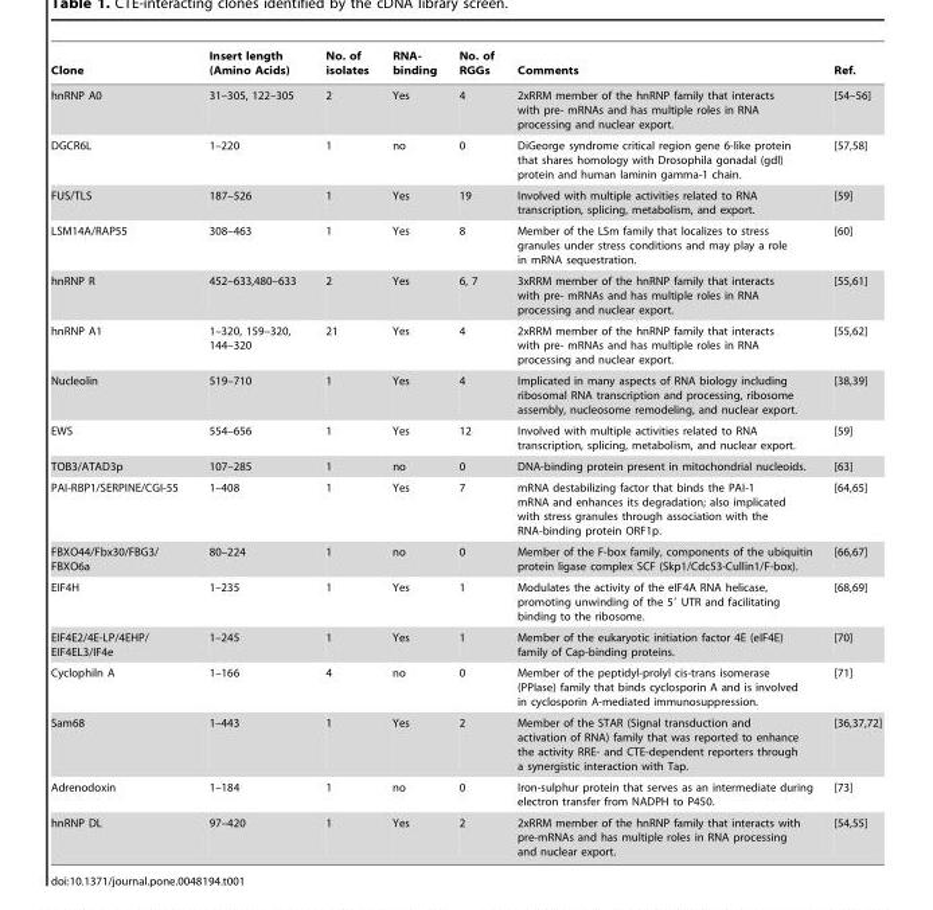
<table><thead><tr><td>Clone</td><td>Insert length (Amino Acids)</td><td>No. of isolates</td><td>RNA- binding</td><td>No. of RGGs</td><td>Comments</td><td>Ref.</td></tr></thead><tbody><tr><td>hnRNP A0</td><td>31–305, 122–305</td><td>2</td><td>Yes</td><td>4</td><td>2xRRM member of the hnRNP family that interacts with pre- mRNAs and has multiple roles in RNA processing and nuclear export.</td><td>[54–56]</td></tr><tr><td>DGCR6L</td><td>1–220</td><td>1</td><td>no</td><td>0</td><td>DiGeorge syndrome critical region gene 6-like protein that shares homology with Drosophila gonadal (gdl) protein and human laminin gamma-1 chain.</td><td>[57,58]</td></tr><tr><td>FUS/TLS</td><td>187–526</td><td>1</td><td>Yes</td><td>19</td><td>Involved with multiple activities related to RNA transcription, splicing, metabolism, and export.</td><td>[59]</td></tr><tr><td>LSM14A/RAP55</td><td>308–463</td><td>1</td><td>Yes</td><td>8</td><td>Member of the LSm family that localizes to stress granules under stress conditions and may play a role in mRNA sequestration.</td><td>[60]</td></tr><tr><td>hnRNP R</td><td>452–633,480–633</td><td>2</td><td>Yes</td><td>6, 7</td><td>3xRRM member of the hnRNP family that interacts with pre- mRNAs and has multiple roles in RNA processing and nuclear export.</td><td>[55,61]</td></tr><tr><td>hnRNP A1</td><td>1–320, 159–320, 144–320</td><td>21</td><td>Yes</td><td>4</td><td>2xRRM member of the hnRNP family that interacts with pre- mRNAs and has multiple roles in RNA processing and nuclear export.</td><td>[55,62]</td></tr><tr><td>Nucleolin</td><td>519–710</td><td>1</td><td>Yes</td><td>4</td><td>Implicated in many aspects of RNA biology including ribosomal RNA transcription and processing, ribosome assembly, nucleosome remodeling, and nuclear export.</td><td>[38,39]</td></tr><tr><td>EWS</td><td>554–656</td><td>1</td><td>Yes</td><td>12</td><td>Involved with multiple activities related to RNA transcription, splicing, metabolism, and nuclear export.</td><td>[59]</td></tr><tr><td>TOB3/ATAD3p</td><td>107–285</td><td>1</td><td>no</td><td>0</td><td>DNA-binding protein present in mitochondrial nucleoids.</td><td>[63]</td></tr><tr><td>PAI-RBP1/SERPINE/CGI-55</td><td>1–408</td><td>1</td><td>Yes</td><td>7</td><td>mRNA destabilizing factor that binds the PAI-1 mRNA and enhances its degradation; also implicated with stress granules through association with the RNA-binding protein ORF1p.</td><td>[64,65]</td></tr><tr><td>FBXO44/Fbx30/FBG3/ FBXO6a</td><td>80–224</td><td>1</td><td>no</td><td>0</td><td>Member of the F-box family, components of the ubiquitin protein ligase complex SCF (Skp1/Cdc53-Cullin1/F-box).</td><td>[66,67]</td></tr><tr><td>EIF4H</td><td>1–235</td><td>1</td><td>Yes</td><td>1</td><td>Modulates the activity of the eIF4A RNA helicase, promoting unwinding of the 5′ UTR and facilitating binding to the ribosome.</td><td>[68,69]</td></tr><tr><td>EIF4E2/4E-LP/4EHP/ EIF4EL3/IF4e</td><td>1–245</td><td>1</td><td>Yes</td><td>1</td><td>Member of the eukaryotic initiation factor 4E (eIF4E) family of Cap-binding proteins.</td><td>[70]</td></tr><tr><td>Cyclophiln A</td><td>1–166</td><td>4</td><td>no</td><td>0</td><td>Member of the peptidyl-prolyl cis-trans isomerase (PPIase) family that binds cyclosporin A and is involved in cyclosporin A-mediated immunosuppression.</td><td>[71]</td></tr><tr><td>Sam68</td><td>1–443</td><td>1</td><td>Yes</td><td>2</td><td>Member of the STAR (Signal transduction and activation of RNA) family that was reported to enhance the activity RRE- and CTE-dependent reporters through a synergistic interaction with Tap.</td><td>[36,37,72]</td></tr><tr><td>Adrenodoxin</td><td>1–184</td><td>1</td><td>no</td><td>0</td><td>Iron-sulphur protein that serves as an intermediate during electron transfer from NADPH to P450.</td><td>[73]</td></tr><tr><td>hnRNP DL</td><td>97–420</td><td>1</td><td>Yes</td><td>2</td><td>2xRRM member of the hnRNP family that interacts with pre-mRNAs and has multiple roles in RNA processing and nuclear export.</td><td>[54,55]</td></tr></tbody></table>